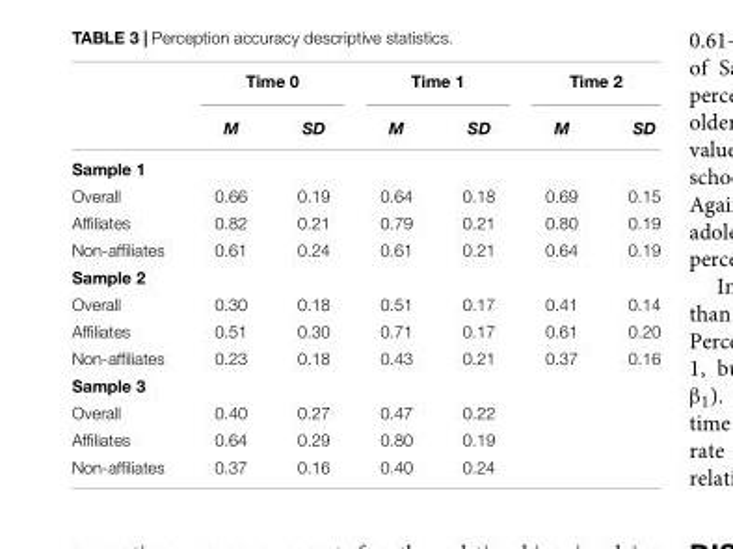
<table><thead><tr><td rowspan="2"></td><td colspan="2">Time 0</td><td colspan="2">Time 1</td><td colspan="2">Time 2</td></tr><tr><td>M</td><td>SD</td><td>M</td><td>SD</td><td>M</td><td>SD</td></tr></thead><tbody><tr><td colspan="7">Sample 1</td></tr><tr><td>Overall</td><td>0.66</td><td>0.19</td><td>0.64</td><td>0.18</td><td>0.69</td><td>0.15</td></tr><tr><td>Affiliates</td><td>0.82</td><td>0.21</td><td>0.79</td><td>0.21</td><td>0.80</td><td>0.19</td></tr><tr><td>Non-affiliates</td><td>0.61</td><td>0.24</td><td>0.61</td><td>0.21</td><td>0.64</td><td>0.19</td></tr><tr><td colspan="7">Sample 2</td></tr><tr><td>Overall</td><td>0.30</td><td>0.18</td><td>0.51</td><td>0.17</td><td>0.41</td><td>0.14</td></tr><tr><td>Affiliates</td><td>0.51</td><td>0.30</td><td>0.71</td><td>0.17</td><td>0.61</td><td>0.20</td></tr><tr><td>Non-affiliates</td><td>0.23</td><td>0.18</td><td>0.43</td><td>0.21</td><td>0.37</td><td>0.16</td></tr><tr><td colspan="7">Sample 3</td></tr><tr><td>Overall</td><td>0.40</td><td>0.27</td><td>0.47</td><td>0.22</td><td></td><td></td></tr><tr><td>Affiliates</td><td>0.64</td><td>0.29</td><td>0.80</td><td>0.19</td><td></td><td></td></tr><tr><td>Non-affiliates</td><td>0.37</td><td>0.16</td><td>0.40</td><td>0.24</td><td></td><td></td></tr></tbody></table>